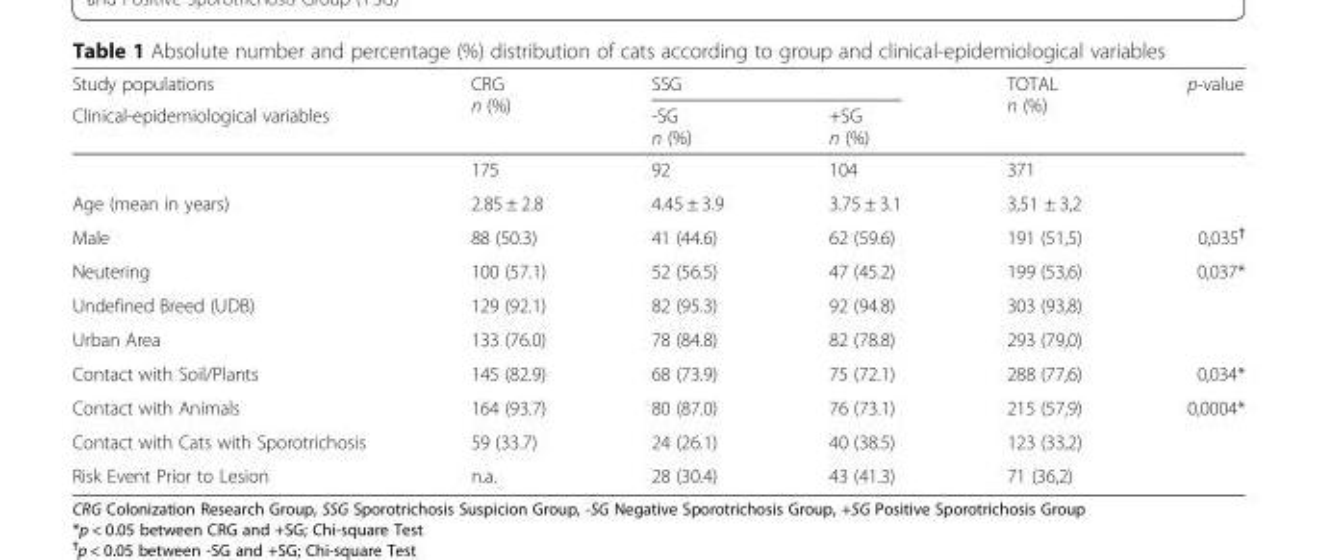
<table><thead><tr><td rowspan="2">Study populations Clinical-epidemiological variables</td><td rowspan="2">CRG n (%)</td><td colspan="2">SSG</td><td rowspan="2">TOTAL n (%)</td><td rowspan="2">p-value</td></tr><tr><td>-SG n (%)</td><td>+SG n (%)</td></tr></thead><tbody><tr><td></td><td>175</td><td>92</td><td>104</td><td>371</td><td rowspan="2"></td></tr><tr><td>Age (mean in years)</td><td>2.85 ± 2.8</td><td>4.45 ± 3.9</td><td>3.75 ± 3.1</td><td>3,51 ± 3,2</td></tr><tr><td>Male</td><td>88 (50.3)</td><td>41 (44.6)</td><td>62 (59.6)</td><td>191 (51,5)</td><td>0,035<sup>ϯ</sup></td></tr><tr><td>Neutering</td><td>100 (57.1)</td><td>52 (56.5)</td><td>47 (45.2)</td><td>199 (53,6)</td><td>0,037*</td></tr><tr><td>Undefined Breed (UDB)</td><td>129 (92.1)</td><td>82 (95.3)</td><td>92 (94.8)</td><td>303 (93,8)</td><td></td></tr><tr><td>Urban Area</td><td>133 (76.0)</td><td>78 (84.8)</td><td>82 (78.8)</td><td>293 (79,0)</td><td></td></tr><tr><td>Contact with Soil/Plants</td><td>145 (82.9)</td><td>68 (73.9)</td><td>75 (72.1)</td><td>288 (77,6)</td><td>0,034*</td></tr><tr><td>Contact with Animals</td><td>164 (93.7)</td><td>80 (87.0)</td><td>76 (73.1)</td><td>215 (57,9)</td><td>0,0004*</td></tr><tr><td>Contact with Cats with Sporotrichosis</td><td>59 (33.7)</td><td>24 (26.1)</td><td>40 (38.5)</td><td>123 (33,2)</td><td></td></tr><tr><td>Risk Event Prior to Lesion</td><td>n.a.</td><td>28 (30.4)</td><td>43 (41.3)</td><td>71 (36,2)</td><td></td></tr></tbody></table>